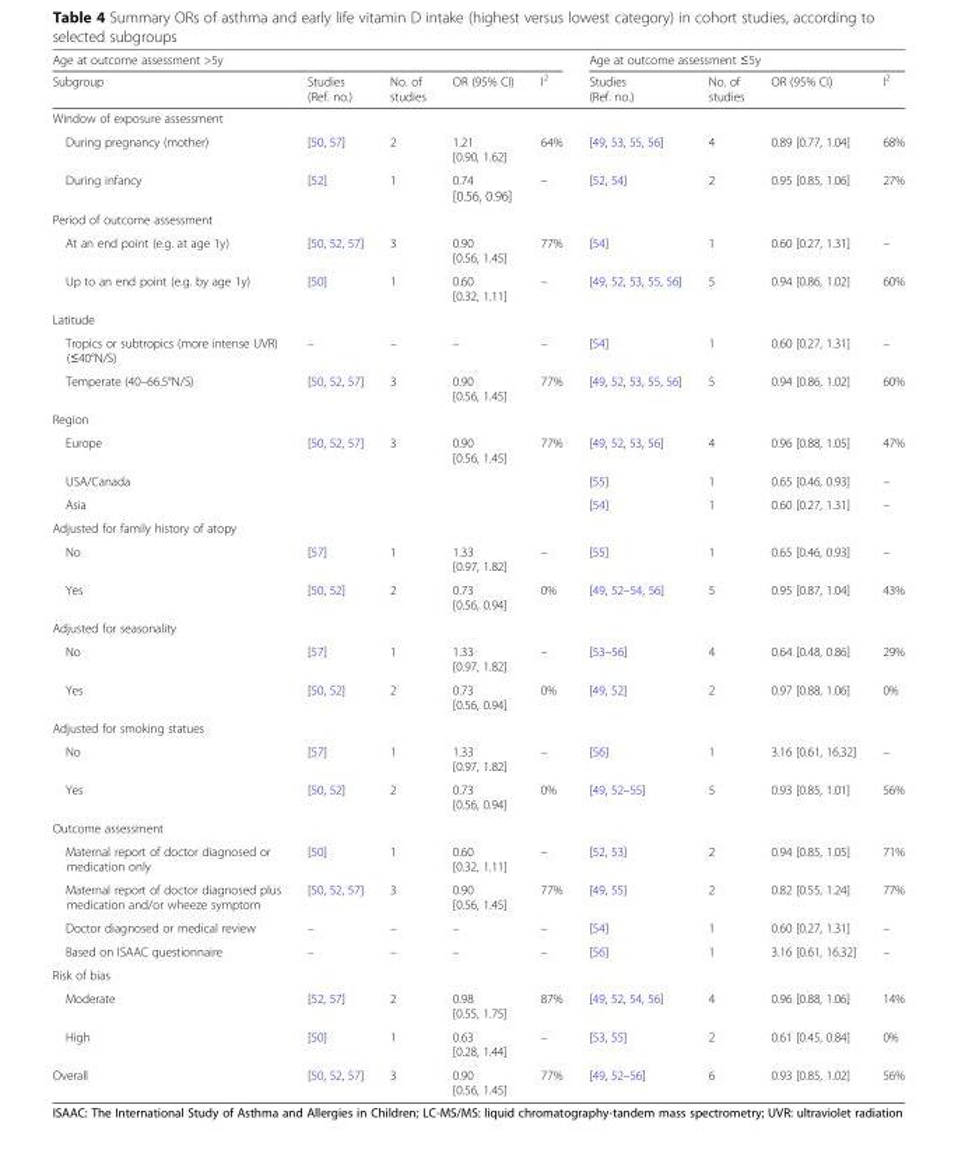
<table><thead><tr><td colspan="5">Age at outcome assessment &gt;5y</td><td colspan="4">Age at outcome assessment ≤5y</td></tr><tr><td>Subgroup</td><td>Studies (Ref. no.)</td><td>No. of studies</td><td>OR (95% CI)</td><td>I<sup>2</sup></td><td>Studies (Ref. no.)</td><td>No. of studies</td><td>OR (95% CI)</td><td>I<sup>2</sup></td></tr></thead><tbody><tr><td colspan="9">Window of exposure assessment</td></tr><tr><td>During pregnancy (mother)</td><td>[50, 57]</td><td>2</td><td>1.21 [0.90, 1.62]</td><td>64%</td><td>[49, 53, 55, 56]</td><td>4</td><td>0.89 [0.77, 1.04]</td><td>68%</td></tr><tr><td>During infancy</td><td>[52]</td><td>1</td><td>0.74 [0.56, 0.96]</td><td>–</td><td>[52, 54]</td><td>2</td><td>0.95 [0.85, 1.06]</td><td>27%</td></tr><tr><td colspan="9">Period of outcome assessment</td></tr><tr><td>At an end point (e.g. at age 1y)</td><td>[50, 52, 57]</td><td>3</td><td>0.90 [0.56, 1.45]</td><td>77%</td><td>[54]</td><td>1</td><td>0.60 [0.27, 1.31]</td><td>–</td></tr><tr><td>Up to an end point (e.g. by age 1y)</td><td>[50]</td><td>1</td><td>0.60 [0.32, 1.11]</td><td>–</td><td>[49, 52, 53, 55, 56]</td><td>5</td><td>0.94 [0.86, 1.02]</td><td>60%</td></tr><tr><td colspan="9">Latitude</td></tr><tr><td>Tropics or subtropics (more intense UVR) (≤40°N/S)</td><td>–</td><td>–</td><td>–</td><td>–</td><td>[54]</td><td>1</td><td>0.60 [0.27, 1.31]</td><td>–</td></tr><tr><td>Temperate (40–66.5°N/S)</td><td>[50, 52, 57]</td><td>3</td><td>0.90 [0.56, 1.45]</td><td>77%</td><td>[49, 52, 53, 55, 56]</td><td>5</td><td>0.94 [0.86, 1.02]</td><td>60%</td></tr><tr><td colspan="9">Region</td></tr><tr><td>Europe</td><td>[50, 52, 57]</td><td>3</td><td>0.90 [0.56, 1.45]</td><td>77%</td><td>[49, 52, 53, 56]</td><td>4</td><td>0.96 [0.88, 1.05]</td><td>47%</td></tr><tr><td>USA/Canada</td><td></td><td></td><td></td><td></td><td>[55]</td><td>1</td><td>0.65 [0.46, 0.93]</td><td>–</td></tr><tr><td>Asia</td><td></td><td></td><td></td><td></td><td>[54]</td><td>1</td><td>0.60 [0.27, 1.31]</td><td>–</td></tr><tr><td colspan="9">Adjusted for family history of atopy</td></tr><tr><td>No</td><td>[57]</td><td>1</td><td>1.33 [0.97, 1.82]</td><td>–</td><td>[55]</td><td>1</td><td>0.65 [0.46, 0.93]</td><td>–</td></tr><tr><td>Yes</td><td>[50, 52]</td><td>2</td><td>0.73 [0.56, 0.94]</td><td>0%</td><td>[49, 52–54, 56]</td><td>5</td><td>0.95 [0.87, 1.04]</td><td>43%</td></tr><tr><td colspan="9">Adjusted for seasonality</td></tr><tr><td>No</td><td>[57]</td><td>1</td><td>1.33 [0.97, 1.82]</td><td>–</td><td>[53–56]</td><td>4</td><td>0.64 [0.48, 0.86]</td><td>29%</td></tr><tr><td>Yes</td><td>[50, 52]</td><td>2</td><td>0.73 [0.56, 0.94]</td><td>0%</td><td>[49, 52]</td><td>2</td><td>0.97 [0.88, 1.06]</td><td>0%</td></tr><tr><td colspan="9">Adjusted for smoking statues</td></tr><tr><td>No</td><td>[57]</td><td>1</td><td>1.33 [0.97, 1.82]</td><td>–</td><td>[56]</td><td>1</td><td>3.16 [0.61, 16.32]</td><td>–</td></tr><tr><td>Yes</td><td>[50, 52]</td><td>2</td><td>0.73 [0.56, 0.94]</td><td>0%</td><td>[49, 52–55]</td><td>5</td><td>0.93 [0.85, 1.01]</td><td>56%</td></tr><tr><td colspan="9">Outcome assessment</td></tr><tr><td>Maternal report of doctor diagnosed or medication only</td><td>[50]</td><td>1</td><td>0.60 [0.32, 1.11]</td><td>–</td><td>[52, 53]</td><td>2</td><td>0.94 [0.85, 1.05]</td><td>71%</td></tr><tr><td>Maternal report of doctor diagnosed plus medication and/or wheeze symptom</td><td>[50, 52, 57]</td><td>3</td><td>0.90 [0.56, 1.45]</td><td>77%</td><td>[49, 55]</td><td>2</td><td>0.82 [0.55, 1.24]</td><td>77%</td></tr><tr><td>Doctor diagnosed or medical review</td><td>–</td><td>–</td><td>–</td><td>–</td><td>[54]</td><td>1</td><td>0.60 [0.27, 1.31]</td><td>–</td></tr><tr><td>Based on ISAAC questionnaire</td><td>–</td><td>–</td><td>–</td><td>–</td><td>[56]</td><td>1</td><td>3.16 [0.61, 16.32]</td><td>–</td></tr><tr><td colspan="9">Risk of bias</td></tr><tr><td>Moderate</td><td>[52, 57]</td><td>2</td><td>0.98 [0.55, 1.75]</td><td>87%</td><td>[49, 52, 54, 56]</td><td>4</td><td>0.96 [0.88, 1.06]</td><td>14%</td></tr><tr><td>High</td><td>[50]</td><td>1</td><td>0.63 [0.28, 1.44]</td><td>–</td><td>[53, 55]</td><td>2</td><td>0.61 [0.45, 0.84]</td><td>0%</td></tr><tr><td>Overall</td><td>[50, 52, 57]</td><td>3</td><td>0.90 [0.56, 1.45]</td><td>77%</td><td>[49, 52–56]</td><td>6</td><td>0.93 [0.85, 1.02]</td><td>56%</td></tr></tbody></table>